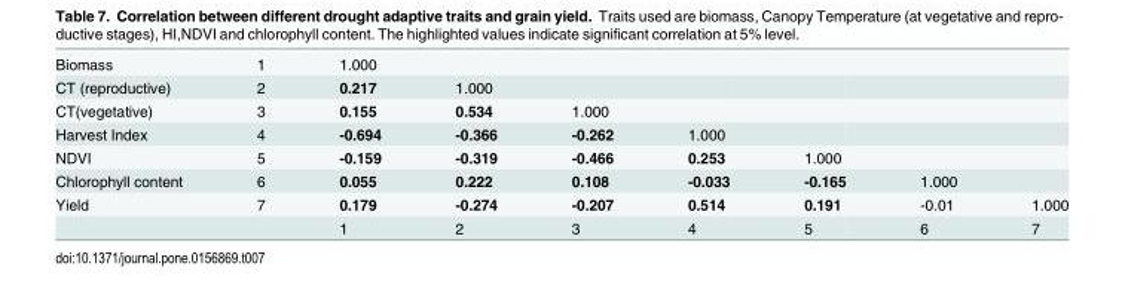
<table><tbody><tr><td>Biomass</td><td>1</td><td>1.000</td><td></td><td></td><td></td><td></td><td></td><td></td></tr><tr><td>CT (reproductive)</td><td>2</td><td>0.217</td><td>1.000</td><td></td><td></td><td></td><td></td><td></td></tr><tr><td>CT(vegetative)</td><td>3</td><td>0.155</td><td>0.534</td><td>1.000</td><td></td><td></td><td></td><td></td></tr><tr><td>Harvest Index</td><td>4</td><td>-0.694</td><td>-0.366</td><td>-0.262</td><td>1.000</td><td></td><td></td><td></td></tr><tr><td>NDVI</td><td>5</td><td>-0.159</td><td>-0.319</td><td>-0.466</td><td>0.253</td><td>1.000</td><td></td><td></td></tr><tr><td>Chlorophyll content</td><td>6</td><td>0.055</td><td>0.222</td><td>0.108</td><td>-0.033</td><td>-0.165</td><td>1.000</td><td></td></tr><tr><td rowspan="2">Yield</td><td>7</td><td>0.179</td><td>-0.274</td><td>-0.207</td><td>0.514</td><td>0.191</td><td>-0.01</td><td>1.000</td></tr><tr><td></td><td>1</td><td>2</td><td>3</td><td>4</td><td>5</td><td>6</td><td>7</td></tr></tbody></table>